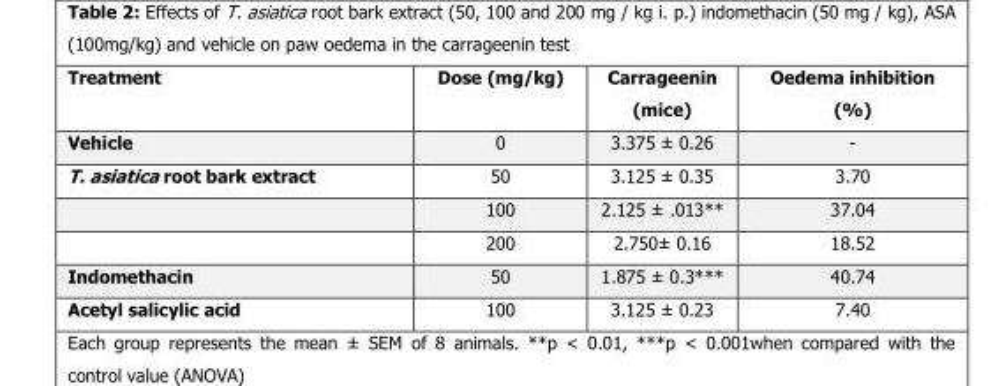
<table><thead><tr><td>Treatment</td><td>Dose (mg/kg)</td><td>Carrageenin (mice)</td><td>Oedema inhibition (%)</td></tr></thead><tbody><tr><td>Vehicle</td><td>0</td><td>3.375 ± 0.26</td><td>-</td></tr><tr><td rowspan="3">T. asiatica root bark extract</td><td>50</td><td>3.125 ± 0.35</td><td>3.70</td></tr><tr><td>100</td><td>2.125 ± .013**</td><td>37.04</td></tr><tr><td>200</td><td>2.750± 0.16</td><td>18.52</td></tr><tr><td>Indomethacin</td><td>50</td><td>1.875 ± 0.3***</td><td>40.74</td></tr><tr><td>Acetyl salicylic acid</td><td>100</td><td>3.125 ± 0.23</td><td>7.40</td></tr></tbody></table>